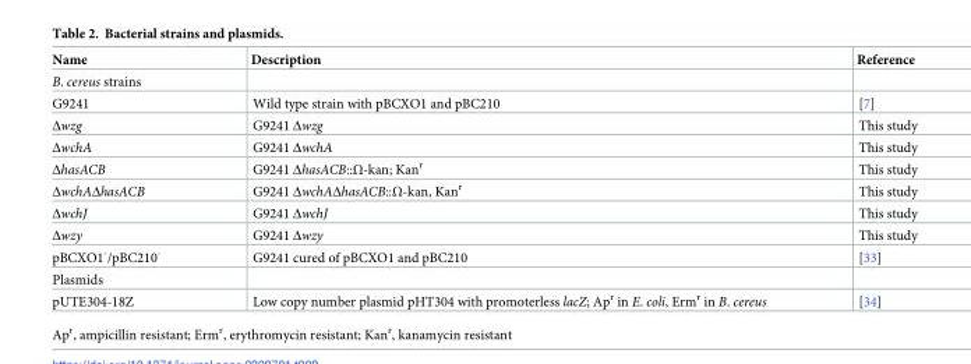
<table><thead><tr><td>Name</td><td>Description</td><td>Reference</td></tr></thead><tbody><tr><td colspan="3">B. cereus strains</td></tr><tr><td>G9241</td><td>Wild type strain with pBCXO1 and pBC210</td><td>[7]</td></tr><tr><td>Δwzg</td><td>G9241 Δwzg</td><td>This study</td></tr><tr><td>ΔwchA</td><td>G9241 ΔwchA</td><td>This study</td></tr><tr><td>ΔhasACB</td><td>G9241 ΔhasACB::Ω-kan; Kan<sup>r</sup></td><td>This study</td></tr><tr><td>ΔwchAΔhasACB</td><td>G9241 ΔwchAΔhasACB::Ω-kan, Kan<sup>r</sup></td><td>This study</td></tr><tr><td>ΔwchJ</td><td>G9241 ΔwchJ</td><td>This study</td></tr><tr><td>Δwzy</td><td>G9241 Δwzy</td><td>This study</td></tr><tr><td>pBCXO1<sup>-</sup>/pBC210<sup>-</sup></td><td>G9241 cured of pBCXO1 and pBC210</td><td>[33]</td></tr><tr><td colspan="3">Plasmids</td></tr><tr><td>pUTE304-18Z</td><td>Low copy number plasmid pHT304 with promoterless lacZ; Ap<sup>r</sup> in E. coli, Erm<sup>r</sup> in B. cereus</td><td>[34]</td></tr></tbody></table>